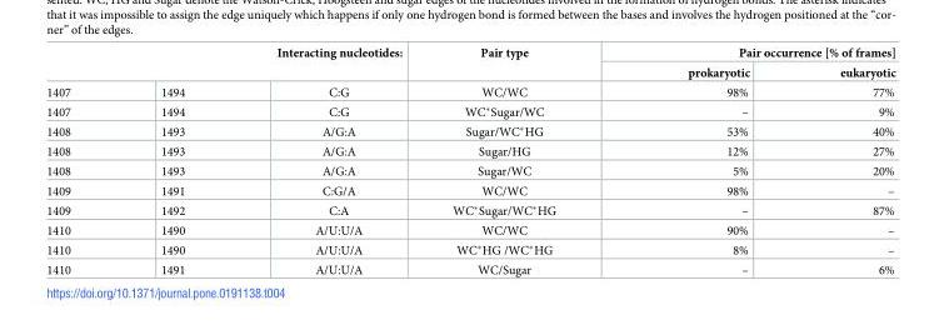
<table><thead><tr><td rowspan="2" colspan="3">Interacting nucleotides:</td><td rowspan="3">Pair type WC/WC</td><td colspan="2">Pair occurrence [% of frames]</td></tr><tr><td rowspan="2">prokaryotic 98%</td><td rowspan="2">eukaryotic 77%</td></tr><tr><td>1407</td><td>1494</td><td>C:G</td></tr></thead><tbody><tr><td>1407</td><td>1494</td><td>C:G</td><td>WC*Sugar/WC</td><td>–</td><td>9%</td></tr><tr><td>1408</td><td>1493</td><td>A/G:A</td><td>Sugar/WC*HG</td><td>53%</td><td>40%</td></tr><tr><td>1408</td><td>1493</td><td>A/G:A</td><td>Sugar/HG</td><td>12%</td><td>27%</td></tr><tr><td>1408</td><td>1493</td><td>A/G:A</td><td>Sugar/WC</td><td>5%</td><td>20%</td></tr><tr><td>1409</td><td>1491</td><td>C:G/A</td><td>WC/WC</td><td>98%</td><td>–</td></tr><tr><td>1409</td><td>1492</td><td>C:A</td><td>WC*Sugar/WC*HG</td><td>–</td><td>87%</td></tr><tr><td>1410</td><td>1490</td><td>A/U:U/A</td><td>WC/WC</td><td>90%</td><td>–</td></tr><tr><td>1410</td><td>1490</td><td>A/U:U/A</td><td>WC*HG /WC*HG</td><td>8%</td><td>–</td></tr><tr><td>1410</td><td>1491</td><td>A/U:U/A</td><td>WC/Sugar</td><td>–</td><td>6%</td></tr></tbody></table>